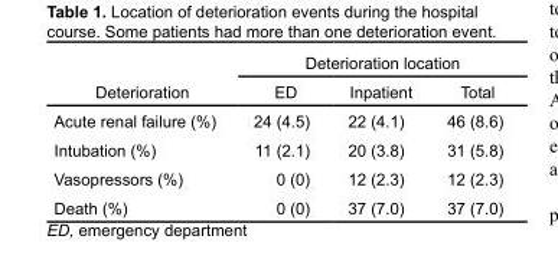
<table><thead><tr><td rowspan="2">Deterioration</td><td colspan="3">Deterioration location</td></tr><tr><td>ED</td><td>Inpatient</td><td>Total</td></tr></thead><tbody><tr><td>Acute renal failure (%)</td><td>24 (4.5)</td><td>22 (4.1)</td><td>46 (8.6)</td></tr><tr><td>Intubation (%)</td><td>11 (2.1)</td><td>20 (3.8)</td><td>31 (5.8)</td></tr><tr><td>Vasopressors (%)</td><td>0 (0)</td><td>12 (2.3)</td><td>12 (2.3)</td></tr><tr><td>Death (%)</td><td>0 (0)</td><td>37 (7.0)</td><td>37 (7.0)</td></tr></tbody></table>